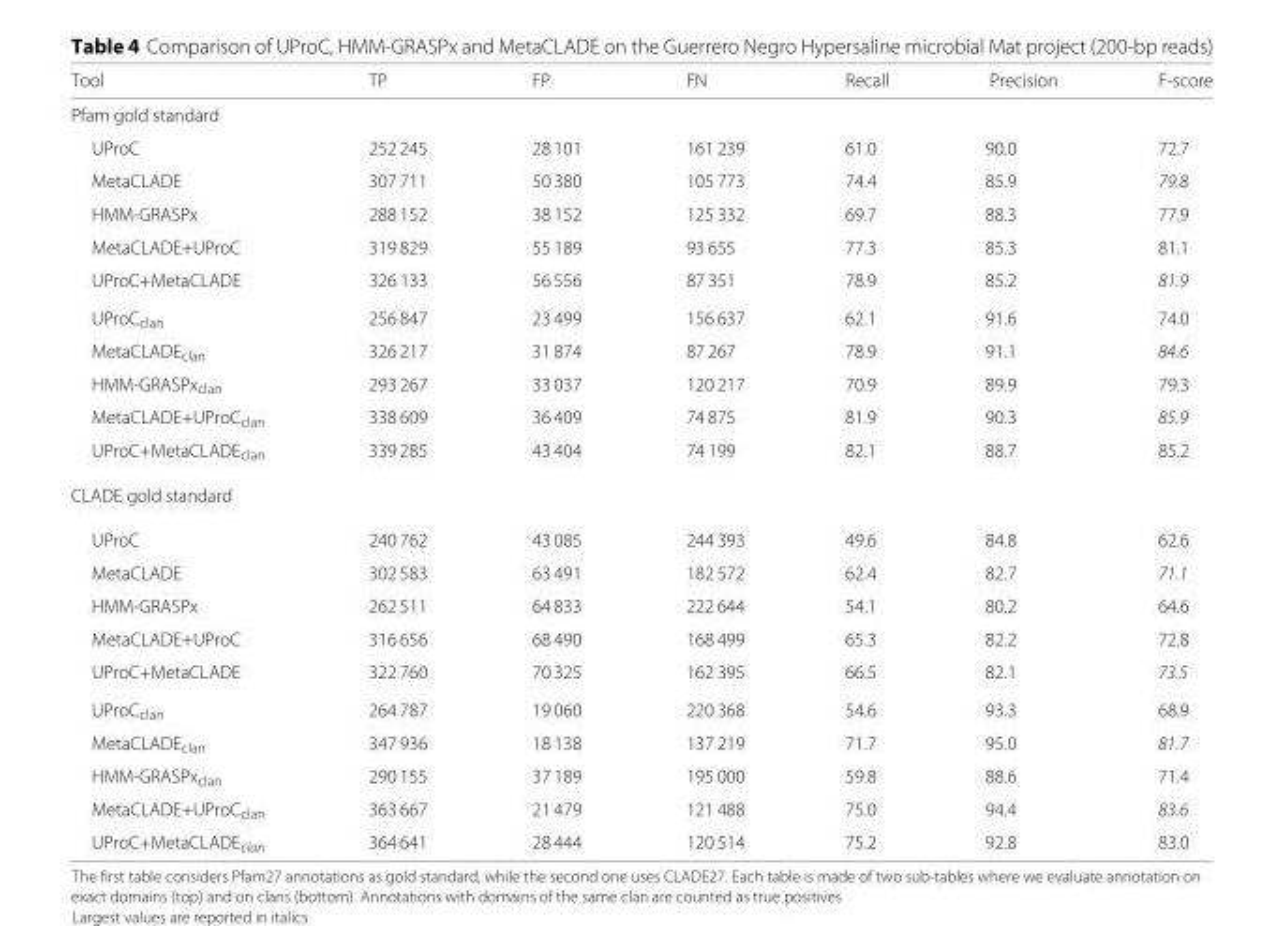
<table><thead><tr><td>Tool</td><td>TP</td><td>FP</td><td>FN</td><td>Recall</td><td>Precision</td><td>F-score</td></tr></thead><tbody><tr><td colspan="7">Pfam gold standard</td></tr><tr><td>UProC</td><td>252 245</td><td>28 101</td><td>161 239</td><td>61.0</td><td>90.0</td><td>72.7</td></tr><tr><td>MetaCLADE</td><td>307 711</td><td>50 380</td><td>105 773</td><td>74.4</td><td>85.9</td><td>79.8</td></tr><tr><td>HMM-GRASPx</td><td>288 152</td><td>38 152</td><td>125 332</td><td>69.7</td><td>88.3</td><td>77.9</td></tr><tr><td>MetaCLADE+UProC</td><td>319 829</td><td>55 189</td><td>93 655</td><td>77.3</td><td>85.3</td><td>81.1</td></tr><tr><td>UProC+MetaCLADE</td><td>326 133</td><td>56 556</td><td>87 351</td><td>78.9</td><td>85.2</td><td>81.9</td></tr><tr><td>UProC<sub>clan</sub></td><td>256 847</td><td>23 499</td><td>156 637</td><td>62.1</td><td>91.6</td><td>74.0</td></tr><tr><td>MetaCLADE<sub>clan</sub></td><td>326 217</td><td>31 874</td><td>87 267</td><td>78.9</td><td>91.1</td><td>84.6</td></tr><tr><td>HMM-GRASPx<sub>clan</sub></td><td>293 267</td><td>33 037</td><td>120 217</td><td>70.9</td><td>89.9</td><td>79.3</td></tr><tr><td>MetaCLADE+UProC<sub>clan</sub></td><td>338 609</td><td>36 409</td><td>74 875</td><td>81.9</td><td>90.3</td><td>85.9</td></tr><tr><td>UProC+MetaCLADE<sub>clan</sub></td><td>339 285</td><td>43 404</td><td>74 199</td><td>82.1</td><td>88.7</td><td>85.2</td></tr><tr><td colspan="7">CLADE gold standard</td></tr><tr><td>UProC</td><td>240 762</td><td>43 085</td><td>244 393</td><td>49.6</td><td>84.8</td><td>62.6</td></tr><tr><td>MetaCLADE</td><td>302 583</td><td>63 491</td><td>182 572</td><td>62.4</td><td>82.7</td><td>71.1</td></tr><tr><td>HMM-GRASPx</td><td>262 511</td><td>64 833</td><td>222 644</td><td>54.1</td><td>80.2</td><td>64.6</td></tr><tr><td>MetaCLADE+UProC</td><td>316 656</td><td>68 490</td><td>168 499</td><td>65.3</td><td>82.2</td><td>72.8</td></tr><tr><td>UProC+MetaCLADE</td><td>322 760</td><td>70 325</td><td>162 395</td><td>66.5</td><td>82.1</td><td>73.5</td></tr><tr><td>UProC<sub>clan</sub></td><td>264 787</td><td>19 060</td><td>220 368</td><td>54.6</td><td>93.3</td><td>68.9</td></tr><tr><td>MetaCLADE<sub>clan</sub></td><td>347 936</td><td>18 138</td><td>137 219</td><td>71.7</td><td>95.0</td><td>81.7</td></tr><tr><td>HMM-GRASPx<sub>clan</sub></td><td>290 155</td><td>37 189</td><td>195 000</td><td>59.8</td><td>88.6</td><td>71.4</td></tr><tr><td>MetaCLADE+UProC<sub>clan</sub></td><td>363 667</td><td>21 479</td><td>121 488</td><td>75.0</td><td>94.4</td><td>83.6</td></tr><tr><td>UProC+MetaCLADE<sub>clan</sub></td><td>364 641</td><td>28 444</td><td>120 514</td><td>75.2</td><td>92.8</td><td>83.0</td></tr></tbody></table>